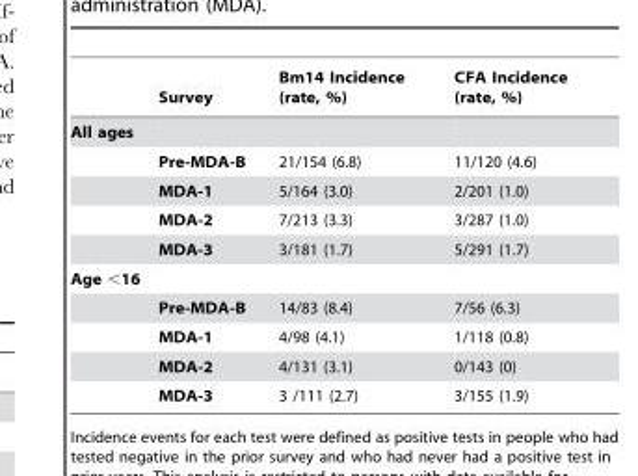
<table><thead><tr><td></td><td>Survey</td><td>Bm14 Incidence (rate, %)</td><td>CFA Incidence (rate, %)</td></tr></thead><tbody><tr><td colspan="4">All ages</td></tr><tr><td></td><td>Pre-MDA-B</td><td>21/154 (6.8)</td><td>11/120 (4.6)</td></tr><tr><td></td><td>MDA-1</td><td>5/164 (3.0)</td><td>2/201 (1.0)</td></tr><tr><td></td><td>MDA-2</td><td>7/213 (3.3)</td><td>3/287 (1.0)</td></tr><tr><td></td><td>MDA-3</td><td>3/181 (1.7)</td><td>5/291 (1.7)</td></tr><tr><td colspan="4">Age &lt;16</td></tr><tr><td></td><td>Pre-MDA-B</td><td>14/83 (8.4)</td><td>7/56 (6.3)</td></tr><tr><td></td><td>MDA-1</td><td>4/98 (4.1)</td><td>1/118 (0.8)</td></tr><tr><td></td><td>MDA-2</td><td>4/131 (3.1)</td><td>0/143 (0)</td></tr><tr><td></td><td>MDA-3</td><td>3 /111 (2.7)</td><td>3/155 (1.9)</td></tr></tbody></table>